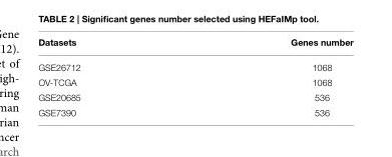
<table><thead><tr><td>Datasets</td><td>Genes number</td></tr></thead><tbody><tr><td>GSE26712</td><td>1068</td></tr><tr><td>OV-TCGA</td><td>1068</td></tr><tr><td>GSE20685</td><td>536</td></tr><tr><td>GSE7390</td><td>536</td></tr></tbody></table>